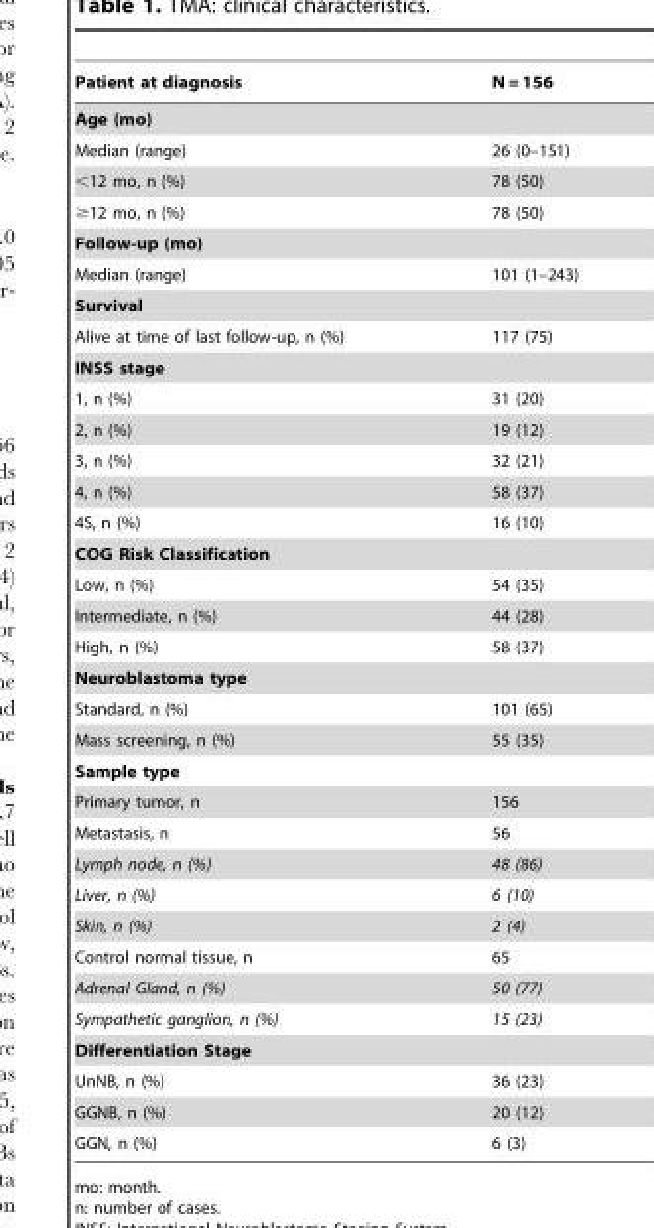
<table><thead><tr><td>Patient at diagnosis</td><td>N = 156</td></tr></thead><tbody><tr><td colspan="2">Age (mo)</td></tr><tr><td>Median (range)</td><td>26 (0–151)</td></tr><tr><td>&lt;12 mo, n (%)</td><td>78 (50)</td></tr><tr><td>≥12 mo, n (%)</td><td>78 (50)</td></tr><tr><td colspan="2">Follow-up (mo)</td></tr><tr><td>Median (range)</td><td>101 (1–243)</td></tr><tr><td colspan="2">Survival</td></tr><tr><td>Alive at time of last follow-up, n (%)</td><td>117 (75)</td></tr><tr><td colspan="2">INSS stage</td></tr><tr><td>1, n (%)</td><td>31 (20)</td></tr><tr><td>2, n (%)</td><td>19 (12)</td></tr><tr><td>3, n (%)</td><td>32 (21)</td></tr><tr><td>4, n (%)</td><td>58 (37)</td></tr><tr><td>4S, n (%)</td><td>16 (10)</td></tr><tr><td colspan="2">COG Risk Classification</td></tr><tr><td>Low, n (%)</td><td>54 (35)</td></tr><tr><td>Intermediate, n (%)</td><td>44 (28)</td></tr><tr><td>High, n (%)</td><td>58 (37)</td></tr><tr><td colspan="2">Neuroblastoma type</td></tr><tr><td>Standard, n (%)</td><td>101 (65)</td></tr><tr><td>Mass screening, n (%)</td><td>55 (35)</td></tr><tr><td colspan="2">Sample type</td></tr><tr><td>Primary tumor, n</td><td>156</td></tr><tr><td>Metastasis, n</td><td>56</td></tr><tr><td>Lymph node, n (%)</td><td>48 (86)</td></tr><tr><td>Liver, n (%)</td><td>6 (10)</td></tr><tr><td>Skin, n (%)</td><td>2 (4)</td></tr><tr><td>Control normal tissue, n</td><td>65</td></tr><tr><td>Adrenal Gland, n (%)</td><td>50 (77)</td></tr><tr><td>Sympathetic ganglion, n (%)</td><td>15 (23)</td></tr><tr><td colspan="2">Differentiation Stage</td></tr><tr><td>UnNB, n (%)</td><td>36 (23)</td></tr><tr><td>GGNB, n (%)</td><td>20 (12)</td></tr><tr><td>GGN, n (%)</td><td>6 (3)</td></tr></tbody></table>